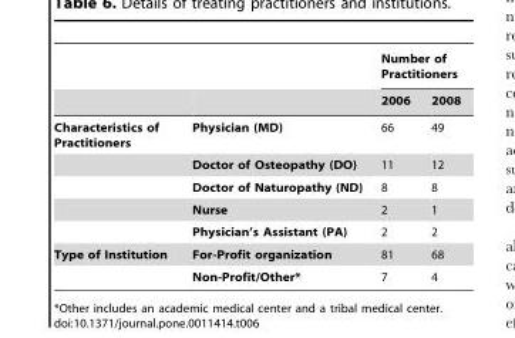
<table><thead><tr><td rowspan="2"></td><td rowspan="2"></td><td colspan="2">Number of Practitioners</td></tr><tr><td>2006</td><td>2008</td></tr></thead><tbody><tr><td rowspan="5">Characteristics of Practitioners</td><td>Physician (MD)</td><td>66</td><td>49</td></tr><tr><td>Doctor of Osteopathy (DO)</td><td>11</td><td>12</td></tr><tr><td>Doctor of Naturopathy (ND)</td><td>8</td><td>8</td></tr><tr><td>Nurse</td><td>2</td><td>1</td></tr><tr><td>Physician’s Assistant (PA)</td><td>2</td><td>2</td></tr><tr><td rowspan="2">Type of Institution</td><td>For-Profit organization</td><td>81</td><td>68</td></tr><tr><td>Non-Profit/Other*</td><td>7</td><td>4</td></tr></tbody></table>